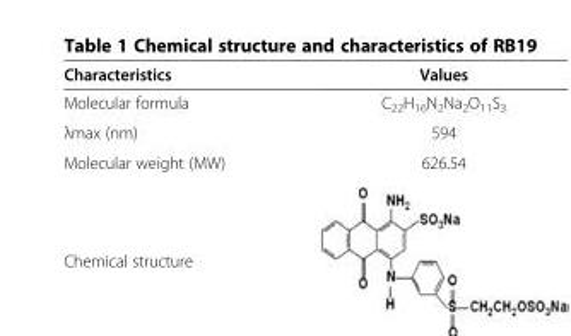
<table><thead><tr><td>Characteristics</td><td>Values</td></tr></thead><tbody><tr><td>Molecular formula</td><td>C<sub>22</sub>H<sub>16</sub>N<sub>2</sub>Na<sub>2</sub>O<sub>11</sub>S<sub>3</sub></td></tr><tr><td>λmax (nm)</td><td>594</td></tr><tr><td>Molecular weight (MW)</td><td>626.54</td></tr><tr><td>Chemical structure</td><td></td></tr></tbody></table>